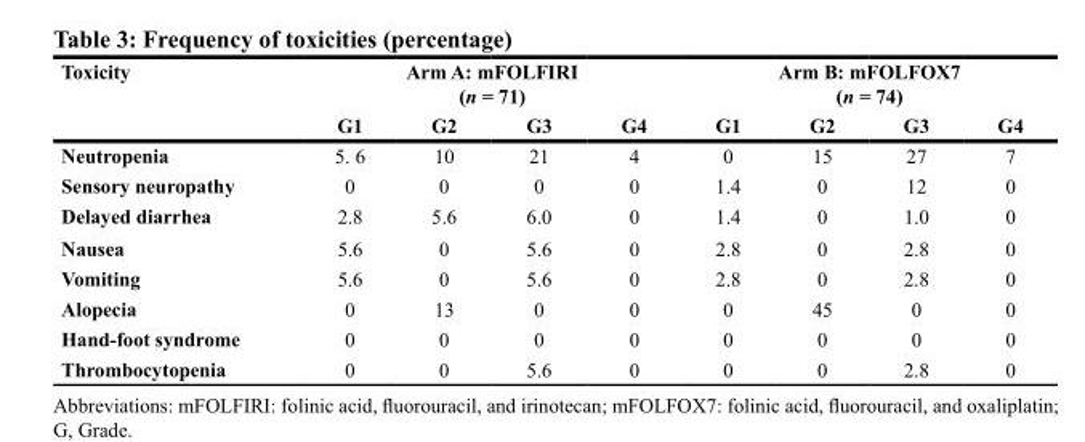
<table><thead><tr><td rowspan="2">Toxicity</td><td colspan="4">Arm A: mFOLFIRI (n = 71)</td><td colspan="4">Arm B: mFOLFOX7 (n = 74)</td></tr><tr><td>G1</td><td>G2</td><td>G3</td><td>G4</td><td>G1</td><td>G2</td><td>G3</td><td>G4</td></tr></thead><tbody><tr><td>Neutropenia</td><td>5. 6</td><td>10</td><td>21</td><td>4</td><td>0</td><td>15</td><td>27</td><td>7</td></tr><tr><td>Sensory neuropathy</td><td>0</td><td>0</td><td>0</td><td>0</td><td>1.4</td><td>0</td><td>12</td><td>0</td></tr><tr><td>Delayed diarrhea</td><td>2.8</td><td>5.6</td><td>6.0</td><td>0</td><td>1.4</td><td>0</td><td>1.0</td><td>0</td></tr><tr><td>Nausea</td><td>5.6</td><td>0</td><td>5.6</td><td>0</td><td>2.8</td><td>0</td><td>2.8</td><td>0</td></tr><tr><td>Vomiting</td><td>5.6</td><td>0</td><td>5.6</td><td>0</td><td>2.8</td><td>0</td><td>2.8</td><td>0</td></tr><tr><td>Alopecia</td><td>0</td><td>13</td><td>0</td><td>0</td><td>0</td><td>45</td><td>0</td><td>0</td></tr><tr><td>Hand-foot syndrome</td><td>0</td><td>0</td><td>0</td><td>0</td><td>0</td><td>0</td><td>0</td><td>0</td></tr><tr><td>Thrombocytopenia</td><td>0</td><td>0</td><td>5.6</td><td>0</td><td>0</td><td>0</td><td>2.8</td><td>0</td></tr></tbody></table>